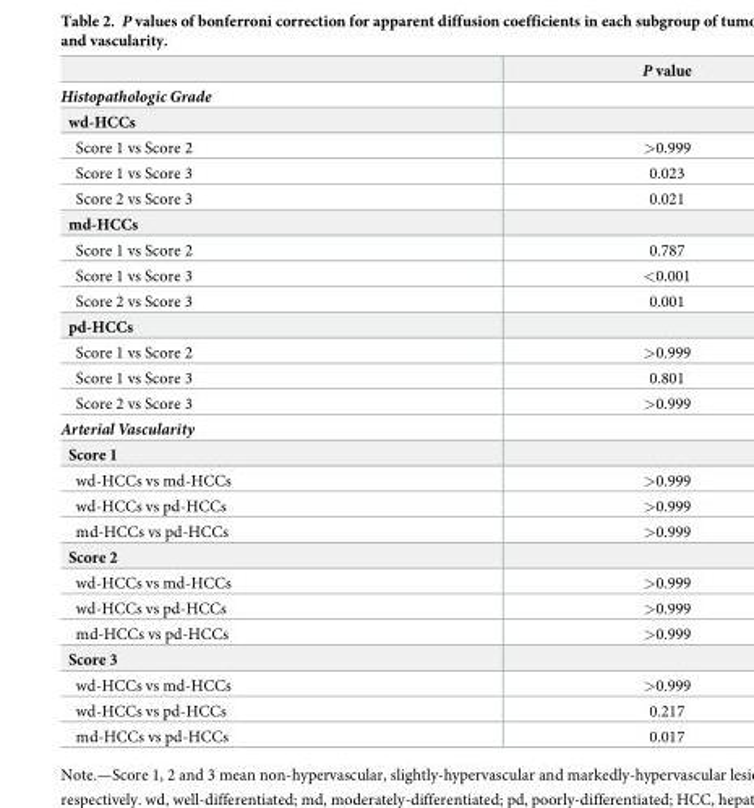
<table><thead><tr><td></td><td>P value</td></tr></thead><tbody><tr><td colspan="2">Histopathologic Grade</td></tr><tr><td colspan="2">wd-HCCs</td></tr><tr><td>Score 1 vs Score 2</td><td>&gt;0.999</td></tr><tr><td>Score 1 vs Score 3</td><td>0.023</td></tr><tr><td>Score 2 vs Score 3</td><td>0.021</td></tr><tr><td colspan="2">md-HCCs</td></tr><tr><td>Score 1 vs Score 2</td><td>0.787</td></tr><tr><td>Score 1 vs Score 3</td><td>&lt;0.001</td></tr><tr><td>Score 2 vs Score 3</td><td>0.001</td></tr><tr><td colspan="2">pd-HCCs</td></tr><tr><td>Score 1 vs Score 2</td><td>&gt;0.999</td></tr><tr><td>Score 1 vs Score 3</td><td>0.801</td></tr><tr><td>Score 2 vs Score 3</td><td>&gt;0.999</td></tr><tr><td colspan="2">Arterial Vascularity</td></tr><tr><td colspan="2">Score 1</td></tr><tr><td>wd-HCCs vs md-HCCs</td><td>&gt;0.999</td></tr><tr><td>wd-HCCs vs pd-HCCs</td><td>&gt;0.999</td></tr><tr><td>md-HCCs vs pd-HCCs</td><td>&gt;0.999</td></tr><tr><td colspan="2">Score 2</td></tr><tr><td>wd-HCCs vs md-HCCs</td><td>&gt;0.999</td></tr><tr><td>wd-HCCs vs pd-HCCs</td><td>&gt;0.999</td></tr><tr><td>md-HCCs vs pd-HCCs</td><td>&gt;0.999</td></tr><tr><td colspan="2">Score 3</td></tr><tr><td>wd-HCCs vs md-HCCs</td><td>&gt;0.999</td></tr><tr><td>wd-HCCs vs pd-HCCs</td><td>0.217</td></tr><tr><td>md-HCCs vs pd-HCCs</td><td>0.017</td></tr></tbody></table>